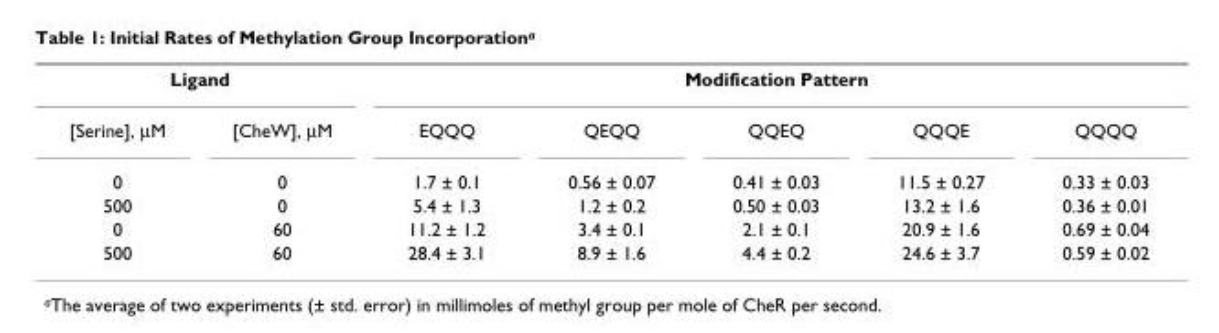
<table><tbody><tr><td colspan="2">Ligand</td><td colspan="5">Modification Pattern</td></tr><tr><td>[Serine], µM</td><td>[CheW], µM</td><td>EQQQ</td><td>QEQQ</td><td>QQEQ</td><td>QQQE</td><td>QQQQ</td></tr><tr><td>0</td><td>0</td><td>1.7 ± 0.1</td><td>0.56 ± 0.07</td><td>0.41 ± 0.03</td><td>11.5 ± 0.27</td><td>0.33 ± 0.03</td></tr><tr><td>500</td><td>0</td><td>5.4 ± 1.3</td><td>1.2 ± 0.2</td><td>0.50 ± 0.03</td><td>13.2 ± 1.6</td><td>0.36 ± 0.01</td></tr><tr><td>0</td><td>60</td><td>11.2 ± 1.2</td><td>3.4 ± 0.1</td><td>2.1 ± 0.1</td><td>20.9 ± 1.6</td><td>0.69 ± 0.04</td></tr><tr><td>500</td><td>60</td><td>28.4 ± 3.1</td><td>8.9 ± 1.6</td><td>4.4 ± 0.2</td><td>24.6 ± 3.7</td><td>0.59 ± 0.02</td></tr></tbody></table>